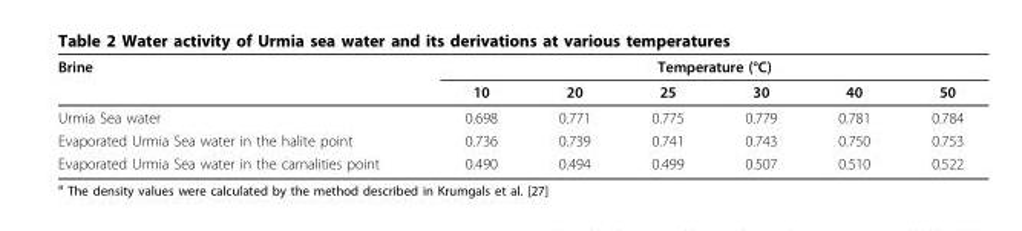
<table><thead><tr><td rowspan="2">Brine</td><td colspan="6">Temperature (°C)</td></tr><tr><td>10</td><td>20</td><td>25</td><td>30</td><td>40</td><td>50</td></tr></thead><tbody><tr><td>Urmia Sea water</td><td>0.698</td><td>0.771</td><td>0.775</td><td>0.779</td><td>0.781</td><td>0.784</td></tr><tr><td>Evaporated Urmia Sea water in the halite point</td><td>0.736</td><td>0.739</td><td>0.741</td><td>0.743</td><td>0.750</td><td>0.753</td></tr><tr><td>Evaporated Urmia Sea water in the carnalities point</td><td>0.490</td><td>0.494</td><td>0.499</td><td>0.507</td><td>0.510</td><td>0.522</td></tr></tbody></table>